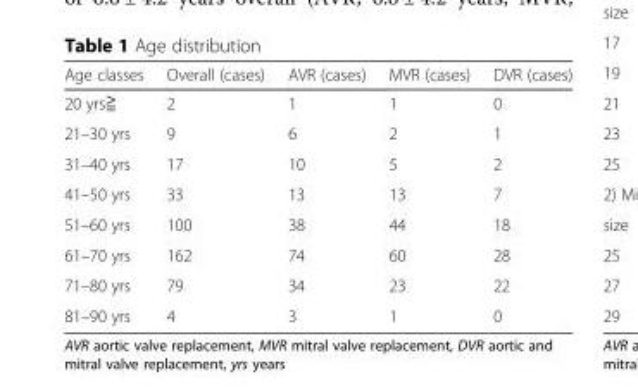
<table><thead><tr><td>Age classes</td><td>Overall (cases)</td><td>AVR (cases)</td><td>MVR (cases)</td><td>DVR (cases)</td></tr></thead><tbody><tr><td>20 yrs≧</td><td>2</td><td>1</td><td>1</td><td>0</td></tr><tr><td>21–30 yrs</td><td>9</td><td>6</td><td>2</td><td>1</td></tr><tr><td>31–40 yrs</td><td>17</td><td>10</td><td>5</td><td>2</td></tr><tr><td>41–50 yrs</td><td>33</td><td>13</td><td>13</td><td>7</td></tr><tr><td>51–60 yrs</td><td>100</td><td>38</td><td>44</td><td>18</td></tr><tr><td>61–70 yrs</td><td>162</td><td>74</td><td>60</td><td>28</td></tr><tr><td>71–80 yrs</td><td>79</td><td>34</td><td>23</td><td>22</td></tr><tr><td>81–90 yrs</td><td>4</td><td>3</td><td>1</td><td>0</td></tr></tbody></table>